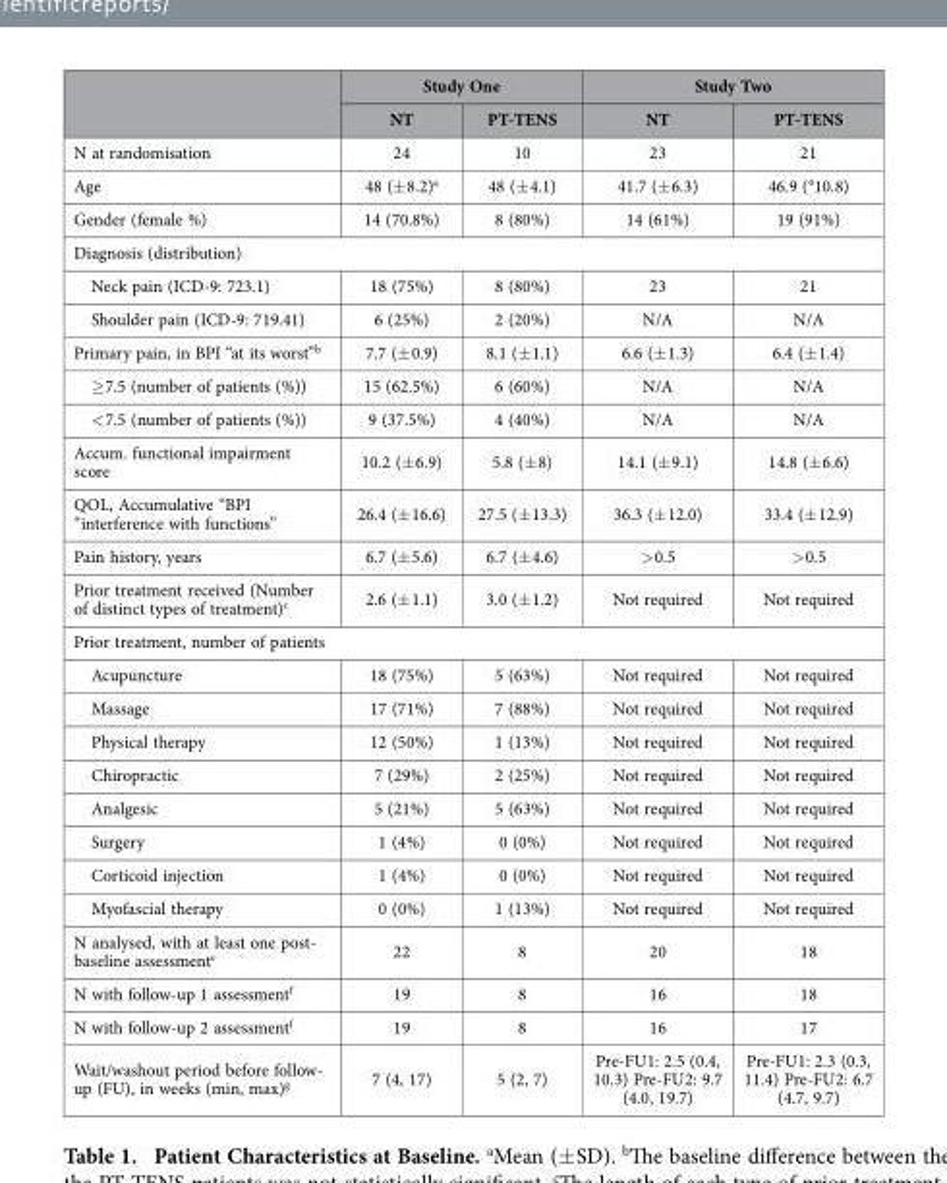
<table><thead><tr><td rowspan="2"></td><td colspan="2">Study One</td><td colspan="2">Study Two</td></tr><tr><td>NT</td><td>PT-TENS</td><td>NT</td><td>PT-TENS</td></tr></thead><tbody><tr><td>N at randomisation</td><td>24</td><td>10</td><td>23</td><td>21</td></tr><tr><td>Age</td><td>48 (± 8.2)<sup>a</sup></td><td>48 (± 4.1)</td><td>41.7 (± 6.3)</td><td>46.9 (°10.8)</td></tr><tr><td>Gender (female %)</td><td>14 (70.8%)</td><td>8 (80%)</td><td>14 (61%)</td><td>19 (91%)</td></tr><tr><td colspan="5">Diagnosis (distribution)</td></tr><tr><td>Neck pain (ICD-9: 723.1)</td><td>18 (75%)</td><td>8 (80%)</td><td>23</td><td>21</td></tr><tr><td>Shoulder pain (ICD-9: 719.41)</td><td>6 (25%)</td><td>2 (20%)</td><td>N/A</td><td>N/A</td></tr><tr><td>Primary pain, in BPI “at its worst”<sup>b</sup></td><td>7.7 (± 0.9)</td><td>8.1 (± 1.1)</td><td>6.6 (± 1.3)</td><td>6.4 (± 1.4)</td></tr><tr><td>≥ 7.5 (number of patients (%))</td><td>15 (62.5%)</td><td>6 (60%)</td><td>N/A</td><td>N/A</td></tr><tr><td>&lt; 7.5 (number of patients (%))</td><td>9 (37.5%)</td><td>4 (40%)</td><td>N/A</td><td>N/A</td></tr><tr><td>Accum. functional impairment score</td><td>10.2 (± 6.9)</td><td>5.8 (± 8)</td><td>14.1 (± 9.1)</td><td>14.8 (± 6.6)</td></tr><tr><td>QOL, Accumulative “BPI “interference with functions”</td><td>26.4 (± 16.6)</td><td>27.5 (± 13.3)</td><td>36.3 (± 12.0)</td><td>33.4 (± 12.9)</td></tr><tr><td>Pain history, years</td><td>6.7 (± 5.6)</td><td>6.7 (± 4.6)</td><td>&gt; 0.5</td><td>&gt; 0.5</td></tr><tr><td>Prior treatment received (Number of distinct types of treatment)<sup>c</sup></td><td>2.6 (± 1.1)</td><td>3.0 (± 1.2)</td><td>Not required</td><td>Not required</td></tr><tr><td colspan="5">Prior treatment, number of patients</td></tr><tr><td>Acupuncture</td><td>18 (75%)</td><td>5 (63%)</td><td>Not required</td><td>Not required</td></tr><tr><td>Massage</td><td>17 (71%)</td><td>7 (88%)</td><td>Not required</td><td>Not required</td></tr><tr><td>Physical therapy</td><td>12 (50%)</td><td>1 (13%)</td><td>Not required</td><td>Not required</td></tr><tr><td>Chiropractic</td><td>7 (29%)</td><td>2 (25%)</td><td>Not required</td><td>Not required</td></tr><tr><td>Analgesic</td><td>5 (21%)</td><td>5 (63%)</td><td>Not required</td><td>Not required</td></tr><tr><td>Surgery</td><td>1 (4%)</td><td>0 (0%)</td><td>Not required</td><td>Not required</td></tr><tr><td>Corticoid injection</td><td>1 (4%)</td><td>0 (0%)</td><td>Not required</td><td>Not required</td></tr><tr><td>Myofascial therapy</td><td>0 (0%)</td><td>1 (13%)</td><td>Not required</td><td>Not required</td></tr><tr><td>N analysed, with at least one post- baseline assessment<sup>e</sup></td><td>22</td><td>8</td><td>20</td><td>18</td></tr><tr><td>N with follow-up 1 assessment<sup>f</sup></td><td>19</td><td>8</td><td>16</td><td>18</td></tr><tr><td>N with follow-up 2 assessment<sup>f</sup></td><td>19</td><td>8</td><td>16</td><td>17</td></tr><tr><td>Wait/washout period before follow- up (FU), in weeks (min, max)<sup>g</sup></td><td>7 (4, 17)</td><td>5 (2, 7)</td><td>Pre-FU1: 2.5 (0.4, 10.3) Pre-FU2: 9.7 (4.0, 19.7)</td><td>Pre-FU1: 2.3 (0.3, 11.4) Pre-FU2: 6.7 (4.7, 9.7)</td></tr></tbody></table>